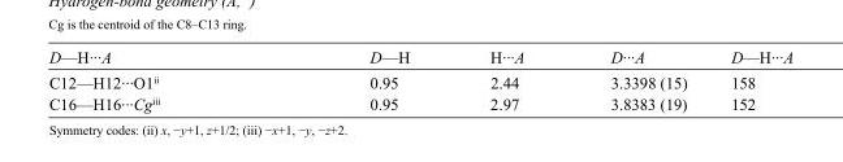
<table><tbody><tr><td>D—H···A</td><td>D—H</td><td>H···A</td><td>D···A</td><td>D—H···A</td></tr><tr><td>C12—H12···O1<sup>ii</sup></td><td>0.95</td><td>2.44</td><td>3.3398 (15)</td><td>158</td></tr><tr><td>C16—H16···Cg<sup>iii</sup></td><td>0.95</td><td>2.97</td><td>3.8383 (19)</td><td>152</td></tr></tbody></table>